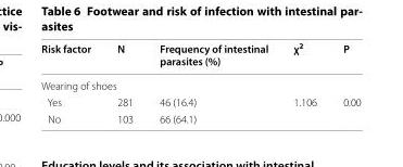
<table><thead><tr><td>Risk factor</td><td>N</td><td>Frequency of intestinal parasites (%)</td><td>χ<sup>2</sup></td><td>P</td></tr></thead><tbody><tr><td colspan="5">Wearing of shoes</td></tr><tr><td>Yes</td><td>281</td><td>46 (16.4)</td><td>1.106</td><td>0.00</td></tr><tr><td>No</td><td>103</td><td>66 (64.1)</td><td></td><td></td></tr></tbody></table>